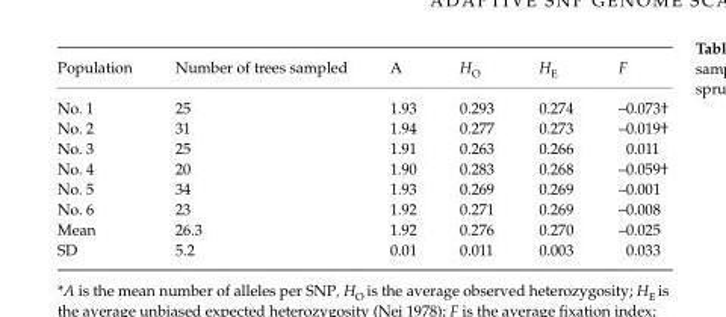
<table><thead><tr><td>Population</td><td>Number of trees sampled</td><td>A</td><td>H<sub>O</sub></td><td>H<sub>E</sub></td><td>F</td></tr></thead><tbody><tr><td>No. 1</td><td>25</td><td>1.93</td><td>0.293</td><td>0.274</td><td>–0.073†</td></tr><tr><td>No. 2</td><td>31</td><td>1.94</td><td>0.277</td><td>0.273</td><td>–0.019†</td></tr><tr><td>No. 3</td><td>25</td><td>1.91</td><td>0.263</td><td>0.266</td><td>0.011</td></tr><tr><td>No. 4</td><td>20</td><td>1.90</td><td>0.283</td><td>0.268</td><td>–0.059†</td></tr><tr><td>No. 5</td><td>34</td><td>1.93</td><td>0.269</td><td>0.269</td><td>–0.001</td></tr><tr><td>No. 6</td><td>23</td><td>1.92</td><td>0.271</td><td>0.269</td><td>–0.008</td></tr><tr><td>Mean</td><td>26.3</td><td>1.92</td><td>0.276</td><td>0.270</td><td>–0.025</td></tr><tr><td>SD</td><td>5.2</td><td>0.01</td><td>0.011</td><td>0.003</td><td>0.033</td></tr></tbody></table>